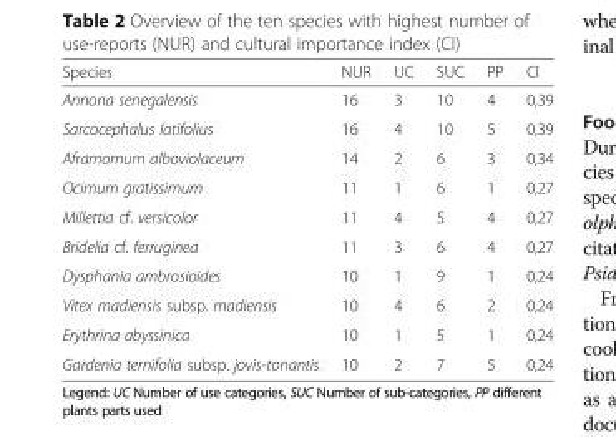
<table><thead><tr><td>Species</td><td>NUR</td><td>UC</td><td>SUC</td><td>PP</td><td>CI</td></tr></thead><tbody><tr><td>Annona senegalensis</td><td>16</td><td>3</td><td>10</td><td>4</td><td>0,39</td></tr><tr><td>Sarcocephalus latifolius</td><td>16</td><td>4</td><td>10</td><td>5</td><td>0,39</td></tr><tr><td>Aframomum alboviolaceum</td><td>14</td><td>2</td><td>6</td><td>3</td><td>0,34</td></tr><tr><td>Ocimum gratissimum</td><td>11</td><td>1</td><td>6</td><td>1</td><td>0,27</td></tr><tr><td>Millettia cf. versicolor</td><td>11</td><td>4</td><td>5</td><td>4</td><td>0,27</td></tr><tr><td>Bridelia cf. ferruginea</td><td>11</td><td>3</td><td>6</td><td>4</td><td>0,27</td></tr><tr><td>Dysphania ambrosioides</td><td>10</td><td>1</td><td>9</td><td>1</td><td>0,24</td></tr><tr><td>Vitex madiensis subsp. madiensis</td><td>10</td><td>4</td><td>6</td><td>2</td><td>0,24</td></tr><tr><td>Erythrina abyssinica</td><td>10</td><td>1</td><td>5</td><td>1</td><td>0,24</td></tr><tr><td>Gardenia ternifolia subsp. jovis-tonantis</td><td>10</td><td>2</td><td>7</td><td>5</td><td>0,24</td></tr></tbody></table>